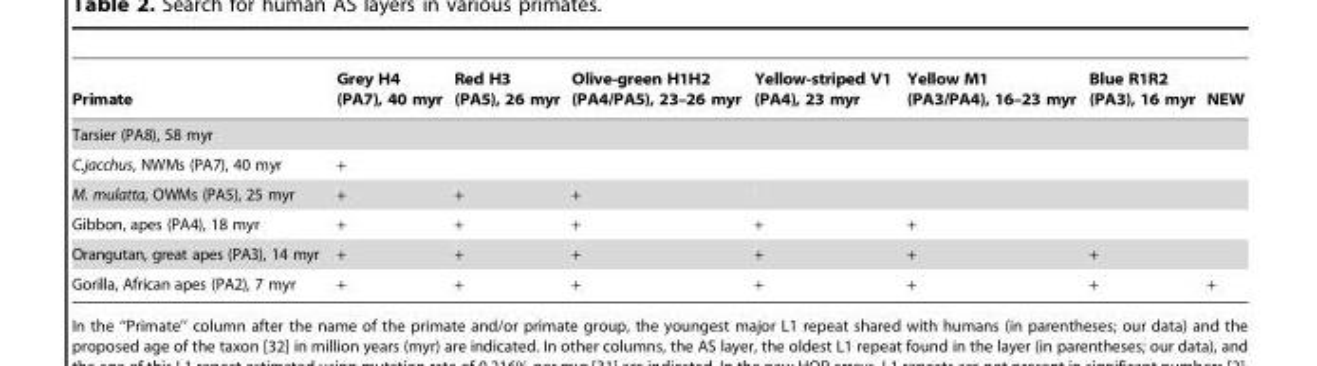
<table><thead><tr><td>Primate</td><td>Grey H4 (PA7), 40 myr</td><td>Red H3 (PA5), 26 myr</td><td>Olive-green H1H2 (PA4/PA5), 23–26 myr</td><td>Yellow-striped V1 (PA4), 23 myr</td><td>Yellow M1 (PA3/PA4), 16–23 myr</td><td>Blue R1R2 (PA3), 16 myr</td><td>NEW</td></tr></thead><tbody><tr><td colspan="8">Tarsier (PA8), 58 myr</td></tr><tr><td>C.jacchus, NWMs (PA7), 40 myr</td><td>+</td><td></td><td></td><td></td><td></td><td></td><td></td></tr><tr><td>M. mulatta, OWMs (PA5), 25 myr</td><td>+</td><td>+</td><td>+</td><td></td><td></td><td></td><td></td></tr><tr><td>Gibbon, apes (PA4), 18 myr</td><td>+</td><td>+</td><td>+</td><td>+</td><td>+</td><td></td><td></td></tr><tr><td>Orangutan, great apes (PA3), 14 myr</td><td>+</td><td>+</td><td>+</td><td>+</td><td>+</td><td>+</td><td></td></tr><tr><td>Gorilla, African apes (PA2), 7 myr</td><td>+</td><td>+</td><td>+</td><td>+</td><td>+</td><td>+</td><td>+</td></tr></tbody></table>